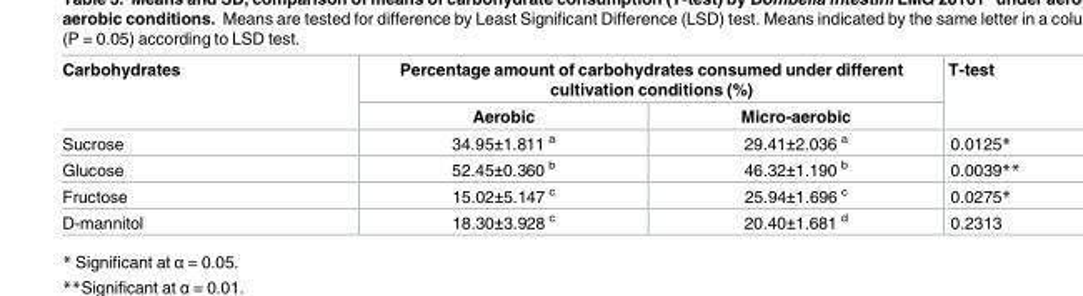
<table><thead><tr><td rowspan="2">Carbohydrates</td><td colspan="2">Percentage amount of carbohydrates consumed under different cultivation conditions (%)</td><td rowspan="2">T-test</td></tr><tr><td>Aerobic</td><td>Micro-aerobic</td></tr></thead><tbody><tr><td>Sucrose</td><td>34.95±1.811 <sup>a</sup></td><td>29.41±2.036 <sup>a</sup></td><td>0.0125*</td></tr><tr><td>Glucose</td><td>52.45±0.360 <sup>b</sup></td><td>46.32±1.190 <sup>b</sup></td><td>0.0039**</td></tr><tr><td>Fructose</td><td>15.02±5.147 <sup>c</sup></td><td>25.94±1.696 <sup>c</sup></td><td>0.0275*</td></tr><tr><td>D-mannitol</td><td>18.30±3.928 <sup>c</sup></td><td>20.40±1.681 <sup>d</sup></td><td>0.2313</td></tr></tbody></table>